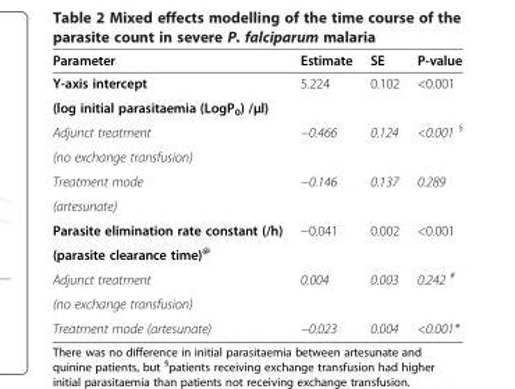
<table><thead><tr><td>Parameter</td><td>Estimate</td><td>SE</td><td>P-value</td></tr></thead><tbody><tr><td>Y-axis intercept</td><td rowspan="2">5.224</td><td rowspan="2">0.102</td><td rowspan="2">&lt;0.001</td></tr><tr><td>(log initial parasitaemia (LogP<sub>0</sub>) /μl)</td></tr><tr><td>Adjunct treatment</td><td rowspan="2">−0.466</td><td rowspan="2">0.124</td><td rowspan="2">&lt;0.001 <sup>§</sup></td></tr><tr><td>(no exchange transfusion)</td></tr><tr><td>Treatment mode</td><td rowspan="2">−0.146</td><td rowspan="2">0.137</td><td rowspan="2">0.289</td></tr><tr><td>(artesunate)</td></tr><tr><td>Parasite elimination rate constant (/h)</td><td rowspan="2">−0.041</td><td rowspan="2">0.002</td><td rowspan="2">&lt;0.001</td></tr><tr><td>(parasite clearance time)<sup>@</sup></td></tr><tr><td>Adjunct treatment</td><td rowspan="2">0.004</td><td rowspan="2">0.003</td><td rowspan="2">0.242 <sup>#</sup></td></tr><tr><td>(no exchange transfusion)</td></tr><tr><td>Treatment mode (artesunate)</td><td>−0.023</td><td>0.004</td><td>&lt;0.001*</td></tr></tbody></table>